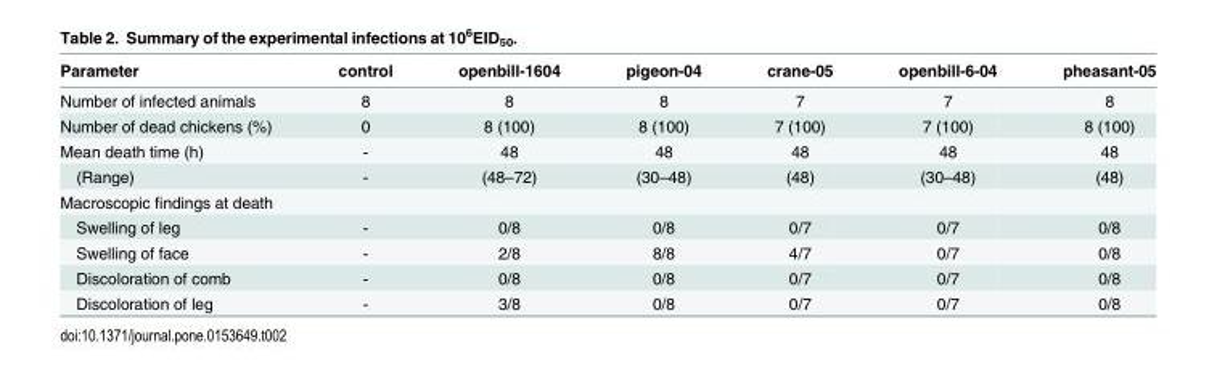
<table><thead><tr><td>Parameter</td><td>control</td><td>openbill-1604</td><td>pigeon-04</td><td>crane-05</td><td>openbill-6-04</td><td>pheasant-05</td></tr></thead><tbody><tr><td>Number of infected animals</td><td>8</td><td>8</td><td>8</td><td>7</td><td>7</td><td>8</td></tr><tr><td>Number of dead chickens (%)</td><td>0</td><td>8 (100)</td><td>8 (100)</td><td>7 (100)</td><td>7 (100)</td><td>8 (100)</td></tr><tr><td>Mean death time (h)</td><td>-</td><td>48</td><td>48</td><td>48</td><td>48</td><td>48</td></tr><tr><td>(Range)</td><td>-</td><td>(48–72)</td><td>(30–48)</td><td>(48)</td><td>(30–48)</td><td>(48)</td></tr><tr><td colspan="7">Macroscopic findings at death</td></tr><tr><td>Swelling of leg</td><td>-</td><td>0/8</td><td>0/8</td><td>0/7</td><td>0/7</td><td>0/8</td></tr><tr><td>Swelling of face</td><td>-</td><td>2/8</td><td>8/8</td><td>4/7</td><td>0/7</td><td>0/8</td></tr><tr><td>Discoloration of comb</td><td>-</td><td>0/8</td><td>0/8</td><td>0/7</td><td>0/7</td><td>0/8</td></tr><tr><td>Discoloration of leg</td><td>-</td><td>3/8</td><td>0/8</td><td>0/7</td><td>0/7</td><td>0/8</td></tr></tbody></table>